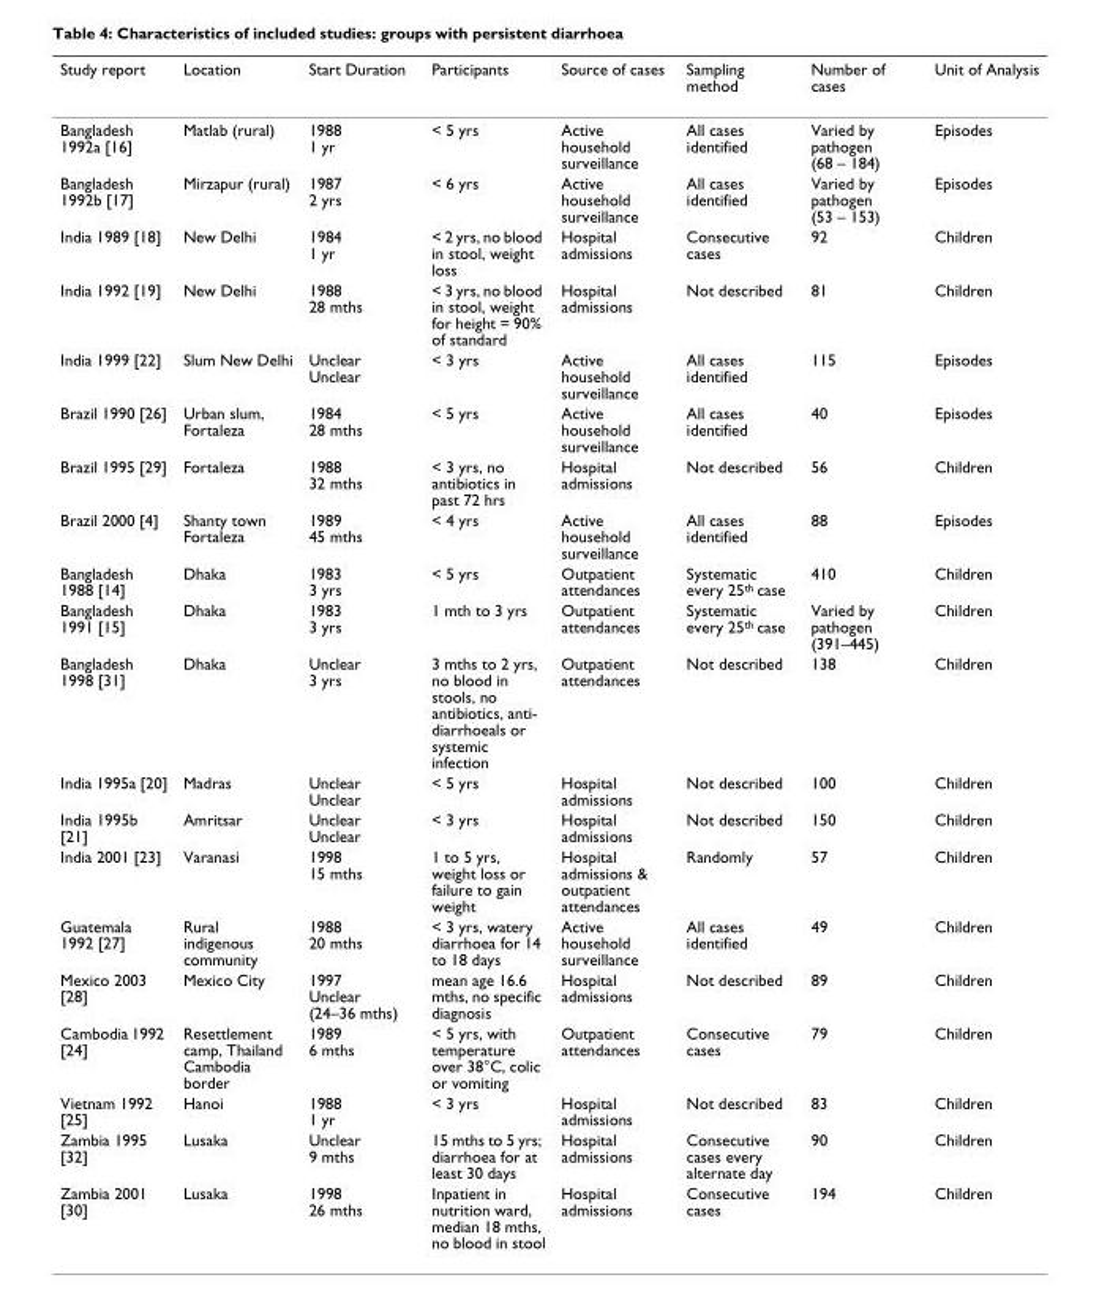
<table><thead><tr><td>Study report</td><td>Location</td><td>Start Duration</td><td>Participants</td><td>Source of cases</td><td>Sampling method</td><td>Number of cases</td><td>Unit of Analysis</td></tr></thead><tbody><tr><td>Bangladesh 1992a [16]</td><td>Matlab (rural)</td><td>1988 1 yr</td><td>&lt; 5 yrs</td><td>Active household surveillance</td><td>All cases identified</td><td>Varied by pathogen (68 – 184)</td><td>Episodes</td></tr><tr><td>Bangladesh 1992b [17]</td><td>Mirzapur (rural)</td><td>1987 2 yrs</td><td>&lt; 6 yrs</td><td>Active household surveillance</td><td>All cases identified</td><td>Varied by pathogen (53 – 153)</td><td>Episodes</td></tr><tr><td>India 1989 [18]</td><td>New Delhi</td><td>1984 1 yr</td><td>&lt; 2 yrs, no blood in stool, weight loss</td><td>Hospital admissions</td><td>Consecutive cases</td><td>92</td><td>Children</td></tr><tr><td>India 1992 [19]</td><td>New Delhi</td><td>1988 28 mths</td><td>&lt; 3 yrs, no blood in stool, weight for height = 90% of standard</td><td>Hospital admissions</td><td>Not described</td><td>81</td><td>Children</td></tr><tr><td>India 1999 [22]</td><td>Slum New Delhi</td><td>Unclear Unclear</td><td>&lt; 3 yrs</td><td>Active household surveillance</td><td>All cases identified</td><td>115</td><td>Episodes</td></tr><tr><td>Brazil 1990 [26]</td><td>Urban slum, Fortaleza</td><td>1984 28 mths</td><td>&lt; 5 yrs</td><td>Active household surveillance</td><td>All cases identified</td><td>40</td><td>Episodes</td></tr><tr><td>Brazil 1995 [29]</td><td>Fortaleza</td><td>1988 32 mths</td><td>&lt; 3 yrs, no antibiotics in past 72 hrs</td><td>Hospital admissions</td><td>Not described</td><td>56</td><td>Children</td></tr><tr><td>Brazil 2000 [4]</td><td>Shanty town Fortaleza</td><td>1989 45 mths</td><td>&lt; 4 yrs</td><td>Active household surveillance</td><td>All cases identified</td><td>88</td><td>Episodes</td></tr><tr><td>Bangladesh 1988 [14]</td><td>Dhaka</td><td>1983 3 yrs</td><td>&lt; 5 yrs</td><td>Outpatient attendances</td><td>Systematic every 25<sup>th</sup> case</td><td>410</td><td>Children</td></tr><tr><td>Bangladesh 1991 [15]</td><td>Dhaka</td><td>1983 3 yrs</td><td>1 mth to 3 yrs</td><td>Outpatient attendances</td><td>Systematic every 25<sup>th</sup> case</td><td>Varied by pathogen (391–445)</td><td>Children</td></tr><tr><td>Bangladesh 1998 [31]</td><td>Dhaka</td><td>Unclear 3 yrs</td><td>3 mths to 2 yrs, no blood in stools, no antibiotics, anti- diarrhoeals or systemic infection</td><td>Outpatient attendances</td><td>Not described</td><td>138</td><td>Children</td></tr><tr><td>India 1995a [20]</td><td>Madras</td><td>Unclear Unclear</td><td>&lt; 5 yrs</td><td>Hospital admissions</td><td>Not described</td><td>100</td><td>Children</td></tr><tr><td>India 1995b [21]</td><td>Amritsar</td><td>Unclear Unclear</td><td>&lt; 3 yrs</td><td>Hospital admissions</td><td>Not described</td><td>150</td><td>Children</td></tr><tr><td>India 2001 [23]</td><td>Varanasi</td><td>1998 15 mths</td><td>1 to 5 yrs, weight loss or failure to gain weight</td><td>Hospital admissions &amp; outpatient attendances</td><td>Randomly</td><td>57</td><td>Children</td></tr><tr><td>Guatemala 1992 [27]</td><td>Rural indigenous community</td><td>1988 20 mths</td><td>&lt; 3 yrs, watery diarrhoea for 14 to 18 days</td><td>Active household surveillance</td><td>All cases identified</td><td>49</td><td>Children</td></tr><tr><td>Mexico 2003 [28]</td><td>Mexico City</td><td>1997 Unclear (24–36 mths)</td><td>mean age 16.6 mths, no specific diagnosis</td><td>Hospital admissions</td><td>Not described</td><td>89</td><td>Children</td></tr><tr><td>Cambodia 1992 [24]</td><td>Resettlement camp, Thailand Cambodia border</td><td>1989 6 mths</td><td>&lt; 5 yrs, with temperature over 38°C, colic or vomiting</td><td>Outpatient attendances</td><td>Consecutive cases</td><td>79</td><td>Children</td></tr><tr><td>Vietnam 1992 [25]</td><td>Hanoi</td><td>1988 1 yr</td><td>&lt; 3 yrs</td><td>Hospital admissions</td><td>Not described</td><td>83</td><td>Children</td></tr><tr><td>Zambia 1995 [32]</td><td>Lusaka</td><td>Unclear 9 mths</td><td>15 mths to 5 yrs; diarrhoea for at least 30 days</td><td>Hospital admissions</td><td>Consecutive cases every alternate day</td><td>90</td><td>Children</td></tr><tr><td>Zambia 2001 [30]</td><td>Lusaka</td><td>1998 26 mths</td><td>Inpatient in nutrition ward, median 18 mths, no blood in stool</td><td>Hospital admissions</td><td>Consecutive cases</td><td>194</td><td>Children</td></tr></tbody></table>